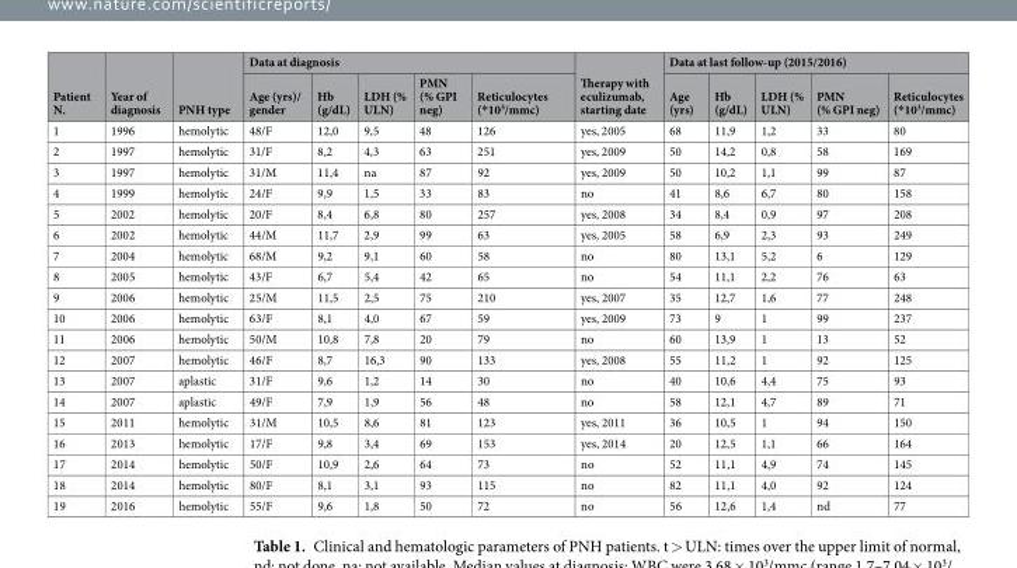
<table><thead><tr><td rowspan="2">Patient N.</td><td rowspan="2">Year of diagnosis</td><td rowspan="2">PNH type</td><td colspan="5">Data at diagnosis</td><td rowspan="2">Therapy with eculizumab, starting date</td><td colspan="5">Data at last follow-up (2015/2016)</td></tr><tr><td>Age (yrs)/ gender</td><td>Hb (g/dL)</td><td>LDH (% ULN)</td><td>PMN (% GPI neg)</td><td>Reticulocytes (*10<sup>3</sup>/mmc)</td><td>Age (yrs)</td><td>Hb (g/dL)</td><td>LDH (% ULN)</td><td>PMN (% GPI neg)</td><td>Reticulocytes (*10<sup>3</sup>/mmc)</td></tr></thead><tbody><tr><td>1</td><td>1996</td><td>hemolytic</td><td>48/F</td><td>12,0</td><td>9,5</td><td>48</td><td>126</td><td>yes, 2005</td><td>68</td><td>11,9</td><td>1,2</td><td>33</td><td>80</td></tr><tr><td>2</td><td>1997</td><td>hemolytic</td><td>31/F</td><td>8,2</td><td>4,3</td><td>63</td><td>251</td><td>yes, 2009</td><td>50</td><td>14,2</td><td>0,8</td><td>58</td><td>169</td></tr><tr><td>3</td><td>1997</td><td>hemolytic</td><td>31/M</td><td>11,4</td><td>na</td><td>87</td><td>92</td><td>yes, 2009</td><td>50</td><td>10,2</td><td>1,1</td><td>99</td><td>87</td></tr><tr><td>4</td><td>1999</td><td>hemolytic</td><td>24/F</td><td>9,9</td><td>1,5</td><td>33</td><td>83</td><td>no</td><td>41</td><td>8,6</td><td>6,7</td><td>80</td><td>158</td></tr><tr><td>5</td><td>2002</td><td>hemolytic</td><td>20/F</td><td>8,4</td><td>6,8</td><td>80</td><td>257</td><td>yes, 2008</td><td>34</td><td>8,4</td><td>0,9</td><td>97</td><td>208</td></tr><tr><td>6</td><td>2002</td><td>hemolytic</td><td>44/M</td><td>11,7</td><td>2,9</td><td>99</td><td>63</td><td>yes, 2005</td><td>58</td><td>6,9</td><td>2,3</td><td>93</td><td>249</td></tr><tr><td>7</td><td>2004</td><td>hemolytic</td><td>68/M</td><td>9,2</td><td>9,1</td><td>60</td><td>58</td><td>no</td><td>80</td><td>13,1</td><td>5,2</td><td>6</td><td>129</td></tr><tr><td>8</td><td>2005</td><td>hemolytic</td><td>43/F</td><td>6,7</td><td>5,4</td><td>42</td><td>65</td><td>no</td><td>54</td><td>11,1</td><td>2,2</td><td>76</td><td>63</td></tr><tr><td>9</td><td>2006</td><td>hemolytic</td><td>25/M</td><td>11,5</td><td>2,5</td><td>75</td><td>210</td><td>yes, 2007</td><td>35</td><td>12,7</td><td>1,6</td><td>77</td><td>248</td></tr><tr><td>10</td><td>2006</td><td>hemolytic</td><td>63/F</td><td>8,1</td><td>4,0</td><td>67</td><td>59</td><td>yes, 2009</td><td>73</td><td>9</td><td>1</td><td>99</td><td>237</td></tr><tr><td>11</td><td>2006</td><td>hemolytic</td><td>50/M</td><td>10,8</td><td>7,8</td><td>20</td><td>79</td><td>no</td><td>60</td><td>13,9</td><td>1</td><td>13</td><td>52</td></tr><tr><td>12</td><td>2007</td><td>hemolytic</td><td>46/F</td><td>8,7</td><td>16,3</td><td>90</td><td>133</td><td>yes, 2008</td><td>55</td><td>11,2</td><td>1</td><td>92</td><td>125</td></tr><tr><td>13</td><td>2007</td><td>aplastic</td><td>31/F</td><td>9,6</td><td>1,2</td><td>14</td><td>30</td><td>no</td><td>40</td><td>10,6</td><td>4,4</td><td>75</td><td>93</td></tr><tr><td>14</td><td>2007</td><td>aplastic</td><td>49/F</td><td>7,9</td><td>1,9</td><td>56</td><td>48</td><td>no</td><td>58</td><td>12,1</td><td>4,7</td><td>89</td><td>71</td></tr><tr><td>15</td><td>2011</td><td>hemolytic</td><td>31/M</td><td>10,5</td><td>8,6</td><td>81</td><td>123</td><td>yes, 2011</td><td>36</td><td>10,5</td><td>1</td><td>94</td><td>150</td></tr><tr><td>16</td><td>2013</td><td>hemolytic</td><td>17/F</td><td>9,8</td><td>3,4</td><td>69</td><td>153</td><td>yes, 2014</td><td>20</td><td>12,5</td><td>1,1</td><td>66</td><td>164</td></tr><tr><td>17</td><td>2014</td><td>hemolytic</td><td>50/F</td><td>10,9</td><td>2,6</td><td>64</td><td>73</td><td>no</td><td>52</td><td>11,1</td><td>4,9</td><td>74</td><td>145</td></tr><tr><td>18</td><td>2014</td><td>hemolytic</td><td>80/F</td><td>8,1</td><td>3,1</td><td>93</td><td>115</td><td>no</td><td>82</td><td>11,1</td><td>4,0</td><td>92</td><td>124</td></tr><tr><td>19</td><td>2016</td><td>hemolytic</td><td>55/F</td><td>9,6</td><td>1,8</td><td>50</td><td>72</td><td>no</td><td>56</td><td>12,6</td><td>1,4</td><td>nd</td><td>77</td></tr></tbody></table>